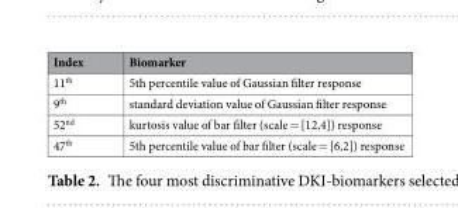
<table><thead><tr><td>Index</td><td>Biomarker</td></tr></thead><tbody><tr><td>11<sup>th</sup></td><td>5th percentile value of Gaussian filter response</td></tr><tr><td>9<sup>th</sup></td><td>standard deviation value of Gaussian filter response</td></tr><tr><td>52<sup>nd</sup></td><td>kurtosis value of bar filter (scale = [12,4]) response</td></tr><tr><td>47<sup>th</sup></td><td>5th percentile value of bar filter (scale = [6,2]) response</td></tr></tbody></table>